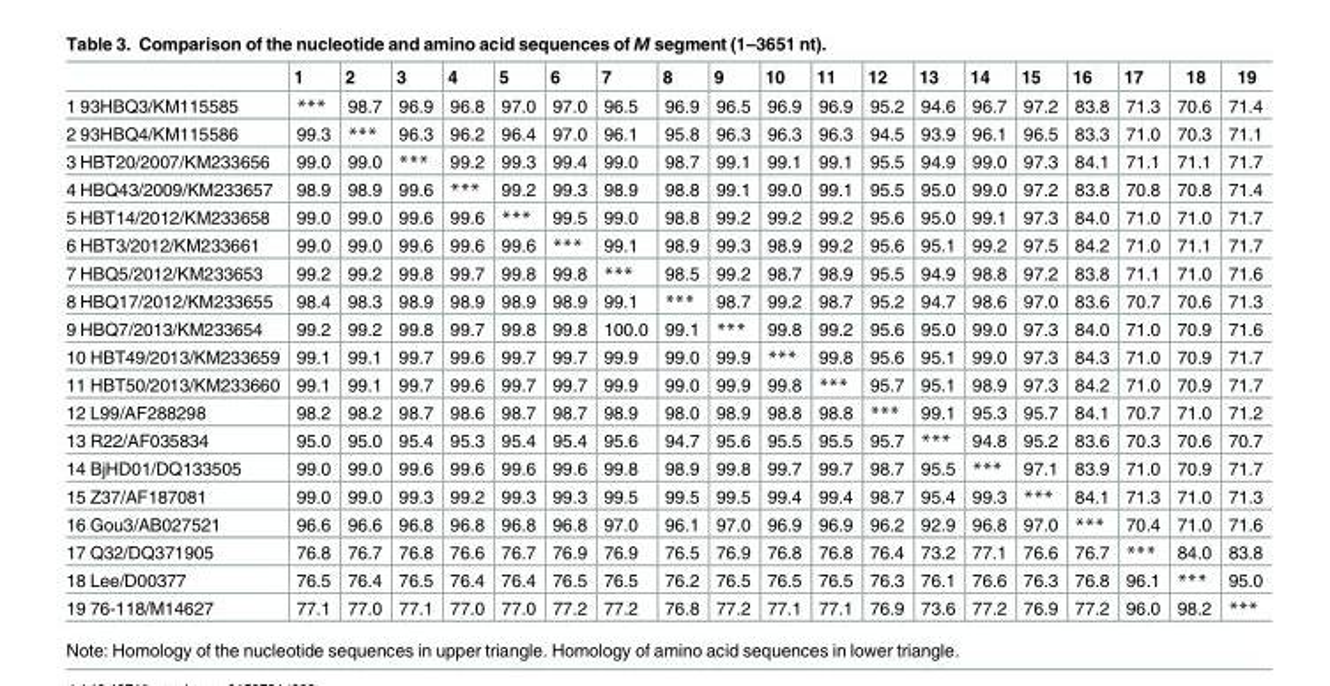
<table><thead><tr><td></td><td>1</td><td>2</td><td>3</td><td>4</td><td>5</td><td>6</td><td>7</td><td>8</td><td>9</td><td>10</td><td>11</td><td>12</td><td>13</td><td>14</td><td>15</td><td>16</td><td>17</td><td>18</td><td>19</td></tr></thead><tbody><tr><td>1 93HBQ3/KM115585</td><td>***</td><td>98.7</td><td>96.9</td><td>96.8</td><td>97.0</td><td>97.0</td><td>96.5</td><td>96.9</td><td>96.5</td><td>96.9</td><td>96.9</td><td>95.2</td><td>94.6</td><td>96.7</td><td>97.2</td><td>83.8</td><td>71.3</td><td>70.6</td><td>71.4</td></tr><tr><td>2 93HBQ4/KM115586</td><td>99.3</td><td>***</td><td>96.3</td><td>96.2</td><td>96.4</td><td>97.0</td><td>96.1</td><td>95.8</td><td>96.3</td><td>96.3</td><td>96.3</td><td>94.5</td><td>93.9</td><td>96.1</td><td>96.5</td><td>83.3</td><td>71.0</td><td>70.3</td><td>71.1</td></tr><tr><td>3 HBT20/2007/KM233656</td><td>99.0</td><td>99.0</td><td>***</td><td>99.2</td><td>99.3</td><td>99.4</td><td>99.0</td><td>98.7</td><td>99.1</td><td>99.1</td><td>99.1</td><td>95.5</td><td>94.9</td><td>99.0</td><td>97.3</td><td>84.1</td><td>71.1</td><td>71.1</td><td>71.7</td></tr><tr><td>4 HBQ43/2009/KM233657</td><td>98.9</td><td>98.9</td><td>99.6</td><td>***</td><td>99.2</td><td>99.3</td><td>98.9</td><td>98.8</td><td>99.1</td><td>99.0</td><td>99.1</td><td>95.5</td><td>95.0</td><td>99.0</td><td>97.2</td><td>83.8</td><td>70.8</td><td>70.8</td><td>71.4</td></tr><tr><td>5 HBT14/2012/KM233658</td><td>99.0</td><td>99.0</td><td>99.6</td><td>99.6</td><td>***</td><td>99.5</td><td>99.0</td><td>98.8</td><td>99.2</td><td>99.2</td><td>99.2</td><td>95.6</td><td>95.0</td><td>99.1</td><td>97.3</td><td>84.0</td><td>71.0</td><td>71.0</td><td>71.7</td></tr><tr><td>6 HBT3/2012/KM233661</td><td>99.0</td><td>99.0</td><td>99.6</td><td>99.6</td><td>99.6</td><td>***</td><td>99.1</td><td>98.9</td><td>99.3</td><td>98.9</td><td>99.2</td><td>95.6</td><td>95.1</td><td>99.2</td><td>97.5</td><td>84.2</td><td>71.0</td><td>71.1</td><td>71.7</td></tr><tr><td>7 HBQ5/2012/KM233653</td><td>99.2</td><td>99.2</td><td>99.8</td><td>99.7</td><td>99.8</td><td>99.8</td><td>***</td><td>98.5</td><td>99.2</td><td>98.7</td><td>98.9</td><td>95.5</td><td>94.9</td><td>98.8</td><td>97.2</td><td>83.8</td><td>71.1</td><td>71.0</td><td>71.6</td></tr><tr><td>8 HBQ17/2012/KM233655</td><td>98.4</td><td>98.3</td><td>98.9</td><td>98.9</td><td>98.9</td><td>98.9</td><td>99.1</td><td>***</td><td>98.7</td><td>99.2</td><td>98.7</td><td>95.2</td><td>94.7</td><td>98.6</td><td>97.0</td><td>83.6</td><td>70.7</td><td>70.6</td><td>71.3</td></tr><tr><td>9 HBQ7/2013/KM233654</td><td>99.2</td><td>99.2</td><td>99.8</td><td>99.7</td><td>99.8</td><td>99.8</td><td>100.0</td><td>99.1</td><td>***</td><td>99.8</td><td>99.2</td><td>95.6</td><td>95.0</td><td>99.0</td><td>97.3</td><td>84.0</td><td>71.0</td><td>70.9</td><td>71.6</td></tr><tr><td>10 HBT49/2013/KM233659</td><td>99.1</td><td>99.1</td><td>99.7</td><td>99.6</td><td>99.7</td><td>99.7</td><td>99.9</td><td>99.0</td><td>99.9</td><td>***</td><td>99.8</td><td>95.6</td><td>95.1</td><td>99.0</td><td>97.3</td><td>84.3</td><td>71.0</td><td>70.9</td><td>71.7</td></tr><tr><td>11 HBT50/2013/KM233660</td><td>99.1</td><td>99.1</td><td>99.7</td><td>99.6</td><td>99.7</td><td>99.7</td><td>99.9</td><td>99.0</td><td>99.9</td><td>99.8</td><td>***</td><td>95.7</td><td>95.1</td><td>98.9</td><td>97.3</td><td>84.2</td><td>71.0</td><td>70.9</td><td>71.7</td></tr><tr><td>12 L99/AF288298</td><td>98.2</td><td>98.2</td><td>98.7</td><td>98.6</td><td>98.7</td><td>98.7</td><td>98.9</td><td>98.0</td><td>98.9</td><td>98.8</td><td>98.8</td><td>***</td><td>99.1</td><td>95.3</td><td>95.7</td><td>84.1</td><td>70.7</td><td>71.0</td><td>71.2</td></tr><tr><td>13 R22/AF035834</td><td>95.0</td><td>95.0</td><td>95.4</td><td>95.3</td><td>95.4</td><td>95.4</td><td>95.6</td><td>94.7</td><td>95.6</td><td>95.5</td><td>95.5</td><td>95.7</td><td>***</td><td>94.8</td><td>95.2</td><td>83.6</td><td>70.3</td><td>70.6</td><td>70.7</td></tr><tr><td>14 BjHD01/DQ133505</td><td>99.0</td><td>99.0</td><td>99.6</td><td>99.6</td><td>99.6</td><td>99.6</td><td>99.8</td><td>98.9</td><td>99.8</td><td>99.7</td><td>99.7</td><td>98.7</td><td>95.5</td><td>***</td><td>97.1</td><td>83.9</td><td>71.0</td><td>70.9</td><td>71.7</td></tr><tr><td>15 Z37/AF187081</td><td>99.0</td><td>99.0</td><td>99.3</td><td>99.2</td><td>99.3</td><td>99.3</td><td>99.5</td><td>99.5</td><td>99.5</td><td>99.4</td><td>99.4</td><td>98.7</td><td>95.4</td><td>99.3</td><td>***</td><td>84.1</td><td>71.3</td><td>71.0</td><td>71.3</td></tr><tr><td>16 Gou3/AB027521</td><td>96.6</td><td>96.6</td><td>96.8</td><td>96.8</td><td>96.8</td><td>96.8</td><td>97.0</td><td>96.1</td><td>97.0</td><td>96.9</td><td>96.9</td><td>96.2</td><td>92.9</td><td>96.8</td><td>97.0</td><td>***</td><td>70.4</td><td>71.0</td><td>71.6</td></tr><tr><td>17 Q32/DQ371905</td><td>76.8</td><td>76.7</td><td>76.8</td><td>76.6</td><td>76.7</td><td>76.9</td><td>76.9</td><td>76.5</td><td>76.9</td><td>76.8</td><td>76.8</td><td>76.4</td><td>73.2</td><td>77.1</td><td>76.6</td><td>76.7</td><td>***</td><td>84.0</td><td>83.8</td></tr><tr><td>18 Lee/D00377</td><td>76.5</td><td>76.4</td><td>76.5</td><td>76.4</td><td>76.4</td><td>76.5</td><td>76.5</td><td>76.2</td><td>76.5</td><td>76.5</td><td>76.5</td><td>76.3</td><td>76.1</td><td>76.6</td><td>76.3</td><td>76.8</td><td>96.1</td><td>***</td><td>95.0</td></tr><tr><td>19 76-118/M14627</td><td>77.1</td><td>77.0</td><td>77.1</td><td>77.0</td><td>77.0</td><td>77.2</td><td>77.2</td><td>76.8</td><td>77.2</td><td>77.1</td><td>77.1</td><td>76.9</td><td>73.6</td><td>77.2</td><td>76.9</td><td>77.2</td><td>96.0</td><td>98.2</td><td>***</td></tr></tbody></table>